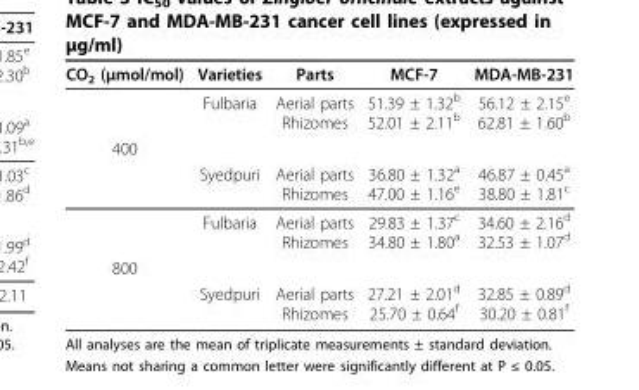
<table><thead><tr><td>CO2 (μmol/mol)</td><td>Varieties</td><td>Parts</td><td>MCF-7</td><td>MDA-MB-231</td></tr></thead><tbody><tr><td></td><td>Fulbaria</td><td>Aerial parts Rhizomes</td><td>51.39 ± 1.32b 52.01 ± 2.11b</td><td>56.12 ± 2.15e 62.81 ± 1.60b</td></tr><tr><td colspan="5">400</td></tr><tr><td></td><td>Syedpuri</td><td>Aerial parts Rhizomes</td><td>36.80 ± 1.32a 47.00 ± 1.16e</td><td>46.87 ± 0.45a 38.80 ± 1.81c</td></tr><tr><td></td><td>Fulbaria</td><td>Aerial parts Rhizomes</td><td>29.83 ± 1.37c 34.80 ± 1.80a</td><td>34.60 ± 2.16d 32.53 ± 1.07d</td></tr><tr><td colspan="5">800</td></tr><tr><td></td><td>Syedpuri</td><td>Aerial parts Rhizomes</td><td>27.21 ± 2.01d 25.70 ± 0.64f</td><td>32.85 ± 0.89d 30.20 ± 0.81f</td></tr></tbody></table>